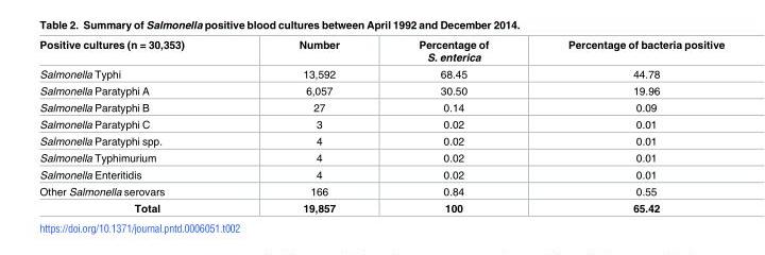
<table><thead><tr><td>Positive cultures (n = 30,353)</td><td>Number</td><td>Percentage of S. enterica</td><td>Percentage of bacteria positive</td></tr></thead><tbody><tr><td>Salmonella Typhi</td><td>13,592</td><td>68.45</td><td>44.78</td></tr><tr><td>Salmonella Paratyphi A</td><td>6,057</td><td>30.50</td><td>19.96</td></tr><tr><td>Salmonella Paratyphi B</td><td>27</td><td>0.14</td><td>0.09</td></tr><tr><td>Salmonella Paratyphi C</td><td>3</td><td>0.02</td><td>0.01</td></tr><tr><td>Salmonella Paratyphi spp.</td><td>4</td><td>0.02</td><td>0.01</td></tr><tr><td>Salmonella Typhimurium</td><td>4</td><td>0.02</td><td>0.01</td></tr><tr><td>Salmonella Enteritidis</td><td>4</td><td>0.02</td><td>0.01</td></tr><tr><td>Other Salmonella serovars</td><td>166</td><td>0.84</td><td>0.55</td></tr><tr><td>Total</td><td>19,857</td><td>100</td><td>65.42</td></tr></tbody></table>